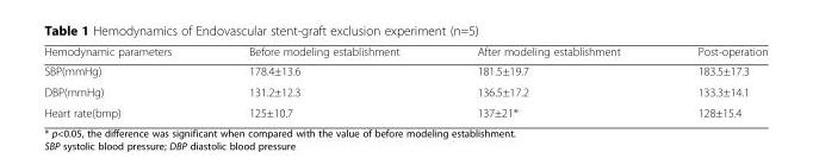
<table><thead><tr><td>Hemodynamic parameters</td><td>Before modeling establishment</td><td>After modeling establishment</td><td>Post-operation</td></tr></thead><tbody><tr><td>SBP(mmHg)</td><td>178.4±13.6</td><td>181.5±19.7</td><td>183.5±17.3</td></tr><tr><td>DBP(mmHg)</td><td>131.2±12.3</td><td>136.5±17.2</td><td>133.3±14.1</td></tr><tr><td>Heart rate(bmp)</td><td>125±10.7</td><td>137±21*</td><td>128±15.4</td></tr></tbody></table>